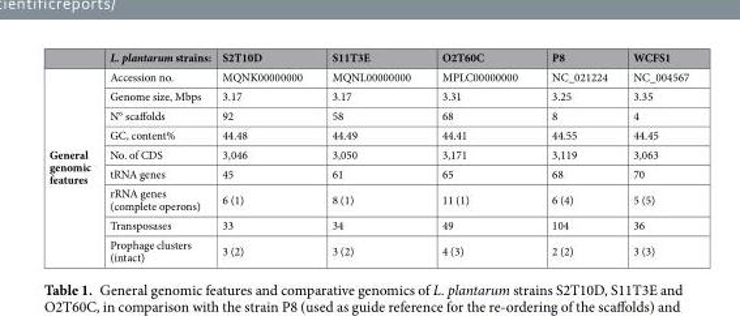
<table><thead><tr><td></td><td>L. plantarum strains:</td><td>S2T10D</td><td>S11T3E</td><td>O2T60C</td><td>P8</td><td>WCFS1</td></tr></thead><tbody><tr><td rowspan="9">General genomic features</td><td>Accession no.</td><td>MQNK00000000</td><td>MQNL00000000</td><td>MPLC00000000</td><td>NC_021224</td><td>NC_004567</td></tr><tr><td>Genome size, Mbps</td><td>3.17</td><td>3.17</td><td>3.31</td><td>3.25</td><td>3.35</td></tr><tr><td>N° scaffolds</td><td>92</td><td>58</td><td>68</td><td>8</td><td>4</td></tr><tr><td>GC, content%</td><td>44.48</td><td>44.49</td><td>44.41</td><td>44.55</td><td>44.45</td></tr><tr><td>No. of CDS</td><td>3,046</td><td>3,050</td><td>3,171</td><td>3,119</td><td>3,063</td></tr><tr><td>tRNA genes</td><td>45</td><td>61</td><td>65</td><td>68</td><td>70</td></tr><tr><td>rRNA genes (complete operons)</td><td>6 (1)</td><td>8 (1)</td><td>11 (1)</td><td>6 (4)</td><td>5 (5)</td></tr><tr><td>Transposases</td><td>33</td><td>34</td><td>49</td><td>104</td><td>36</td></tr><tr><td>Prophage clusters (intact)</td><td>3 (2)</td><td>3 (2)</td><td>4 (3)</td><td>2 (2)</td><td>3 (3)</td></tr></tbody></table>